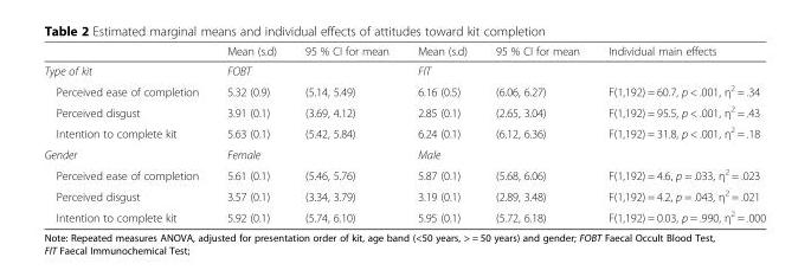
<table><thead><tr><td></td><td>Mean (s.d)</td><td>95 % CI for mean</td><td>Mean (s.d)</td><td>95 % CI for mean</td><td>Individual main effects</td></tr></thead><tbody><tr><td>Type of kit</td><td>FOBT</td><td></td><td>FIT</td><td></td><td></td></tr><tr><td>Perceived ease of completion</td><td>5.32 (0.9)</td><td>(5.14, 5.49)</td><td>6.16 (0.5)</td><td>(6.06, 6.27)</td><td>F(1,192) = 60.7, p &lt; .001, η<sup>2</sup> = .34</td></tr><tr><td>Perceived disgust</td><td>3.91 (0.1)</td><td>(3.69, 4.12)</td><td>2.85 (0.1)</td><td>(2.65, 3.04)</td><td>F(1,192) = 95.5, p &lt; .001, η<sup>2</sup> = .43</td></tr><tr><td>Intention to complete kit</td><td>5.63 (0.1)</td><td>(5.42, 5.84)</td><td>6.24 (0.1)</td><td>(6.12, 6.36)</td><td>F(1,192) = 31.8, p &lt; .001, η<sup>2</sup> = .18</td></tr><tr><td>Gender</td><td>Female</td><td></td><td>Male</td><td></td><td></td></tr><tr><td>Perceived ease of completion</td><td>5.61 (0.1)</td><td>(5.46, 5.76)</td><td>5.87 (0.1)</td><td>(5.68, 6.06)</td><td>F(1,192) = 4.6, p = .033, η<sup>2</sup> = .023</td></tr><tr><td>Perceived disgust</td><td>3.57 (0.1)</td><td>(3.34, 3.79)</td><td>3.19 (0.1)</td><td>(2.89, 3.48)</td><td>F(1,192) = 4.2, p = .043, η<sup>2</sup> = .021</td></tr><tr><td>Intention to complete kit</td><td>5.92 (0.1)</td><td>(5.74, 6.10)</td><td>5.95 (0.1)</td><td>(5.72, 6.18)</td><td>F(1,192) = 0.03, p = .990, η<sup>2</sup> = .000</td></tr></tbody></table>